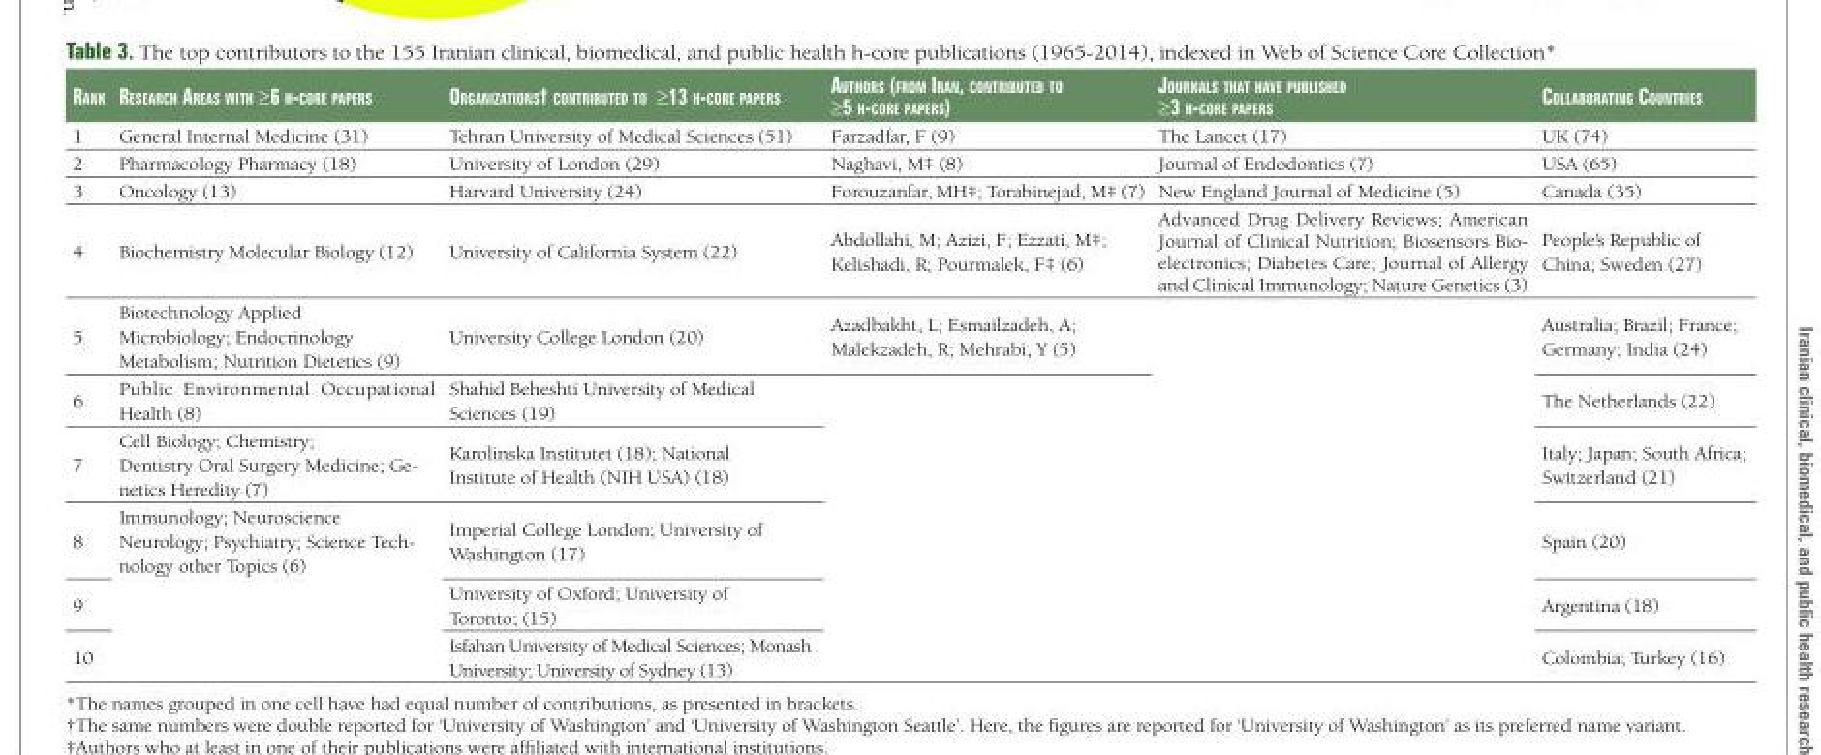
<table><thead><tr><td>Rank</td><td>ReseaRch aReas with ≥6 h-coRe papeRs</td><td>oRganizations† contRibuted to ≥13 h-coRe papeRs</td><td>authoRs (fRom iRan, contRibuted to ≥5 h-coRe papeRs)</td><td>JouRnals that have published ≥3 h-coRe papeRs</td><td>collaboRating countRies</td></tr></thead><tbody><tr><td>1</td><td>General Internal Medicine (31)</td><td>Tehran University of Medical Sciences (51)</td><td>Farzadfar, F (9)</td><td>The Lancet (17)</td><td>UK (74)</td></tr><tr><td>2</td><td>Pharmacology Pharmacy (18)</td><td>University of London (29)</td><td>Naghavi, M‡ (8)</td><td>Journal of Endodontics (7)</td><td>USA (65)</td></tr><tr><td>3</td><td>Oncology (13)</td><td>Harvard University (24)</td><td>Forouzanfar, MH‡; Torabinejad, M‡ (7)</td><td>New England Journal of Medicine (5)</td><td>Canada (35)</td></tr><tr><td>4</td><td>Biochemistry Molecular Biology (12)</td><td>University of California System (22)</td><td>Abdollahi, M; Azizi, F; Ezzati, M‡; Kelishadi, R; Pourmalek, F‡ (6)</td><td>Advanced Drug Delivery Reviews; American Journal of Clinical Nutrition; Biosensors Bio- electronics; Diabetes Care; Journal of Allergy and Clinical Immunology; Nature Genetics (3)</td><td>People’s Republic of China; Sweden (27)</td></tr><tr><td>5</td><td>Biotechnology Applied Microbiology; Endocrinology Metabolism; Nutrition Dietetics (9)</td><td>University College London (20)</td><td>Azadbakht, L; Esmailzadeh, A; Malekzadeh, R; Mehrabi, Y (5)</td><td rowspan="6"></td><td>Australia; Brazil; France; Germany; India (24)</td></tr><tr><td>6</td><td>Public Environmental Occupational Health (8)</td><td>Shahid Beheshti University of Medical Sciences (19)</td><td rowspan="5"></td><td>The Netherlands (22)</td></tr><tr><td>7</td><td>Cell Biology; Chemistry; Dentistry Oral Surgery Medicine; Ge- netics Heredity (7)</td><td>Karolinska Institutet (18); National Institute of Health (NIH USA) (18)</td><td>Italy; Japan; South Africa; Switzerland (21)</td></tr><tr><td>8</td><td>Immunology; Neuroscience Neurology; Psychiatry; Science Tech- nology other Topics (6)</td><td>Imperial College London; University of Washington (17)</td><td>Spain (20)</td></tr><tr><td>9</td><td rowspan="2"></td><td>University of Oxford; University of Toronto; (15)</td><td>Argentina (18)</td></tr><tr><td>10</td><td>Isfahan University of Medical Sciences; Monash University; University of Sydney (13)</td><td>Colombia; Turkey (16)</td></tr></tbody></table>